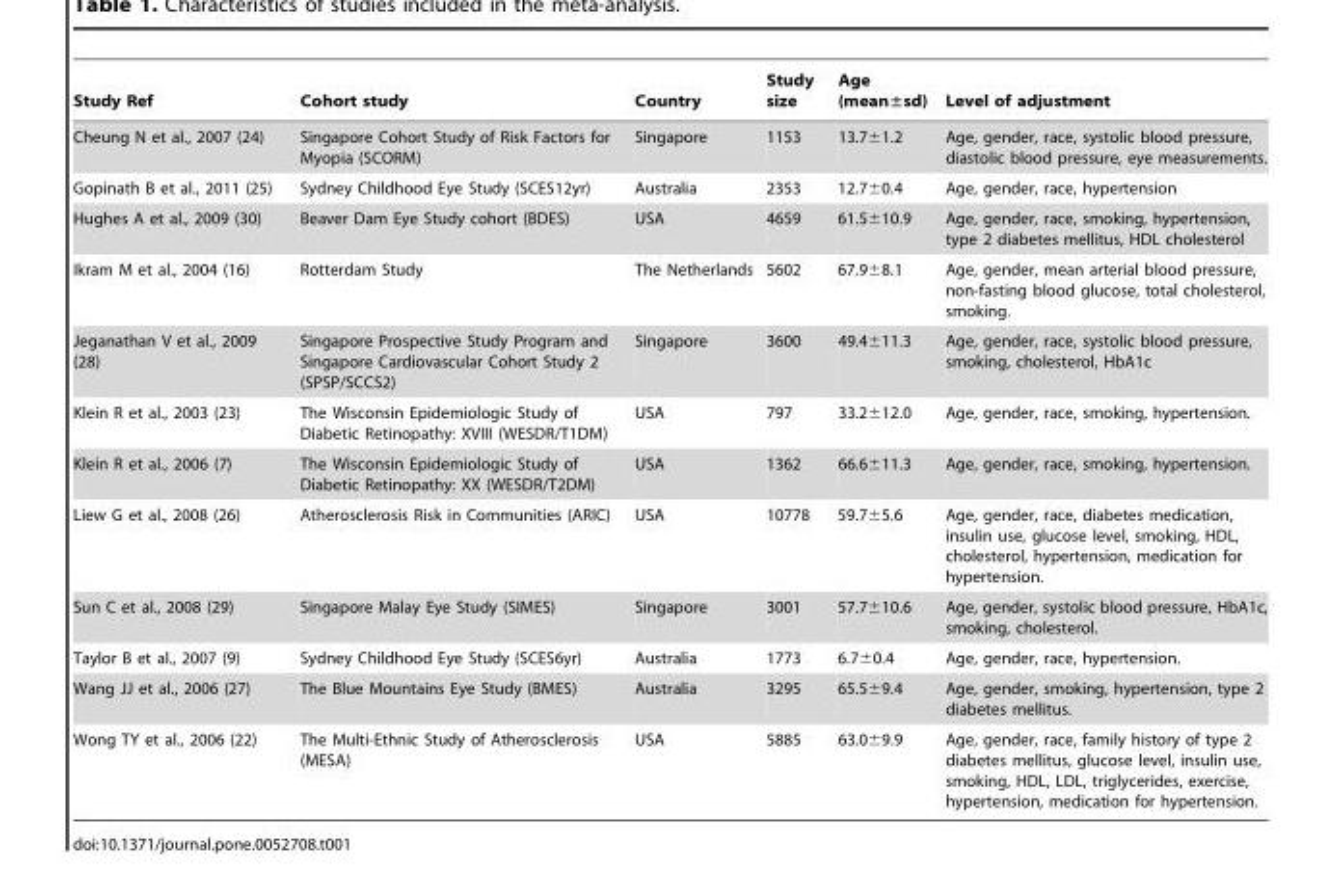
<table><thead><tr><td>Study Ref</td><td>Cohort study</td><td>Country</td><td>Study size</td><td>Age (mean±sd)</td><td>Level of adjustment</td></tr></thead><tbody><tr><td>Cheung N et al., 2007 (24)</td><td>Singapore Cohort Study of Risk Factors for Myopia (SCORM)</td><td>Singapore</td><td>1153</td><td>13.7±1.2</td><td>Age, gender, race, systolic blood pressure, diastolic blood pressure, eye measurements.</td></tr><tr><td>Gopinath B et al., 2011 (25)</td><td>Sydney Childhood Eye Study (SCES12yr)</td><td>Australia</td><td>2353</td><td>12.7±0.4</td><td>Age, gender, race, hypertension</td></tr><tr><td>Hughes A et al., 2009 (30)</td><td>Beaver Dam Eye Study cohort (BDES)</td><td>USA</td><td>4659</td><td>61.5±10.9</td><td>Age, gender, race, smoking, hypertension, type 2 diabetes mellitus, HDL cholesterol</td></tr><tr><td>Ikram M et al., 2004 (16)</td><td>Rotterdam Study</td><td>The Netherlands</td><td>5602</td><td>67.9±8.1</td><td>Age, gender, mean arterial blood pressure, non-fasting blood glucose, total cholesterol, smoking.</td></tr><tr><td>Jeganathan V et al., 2009 (28)</td><td>Singapore Prospective Study Program and Singapore Cardiovascular Cohort Study 2 (SPSP/SCCS2)</td><td>Singapore</td><td>3600</td><td>49.4±11.3</td><td>Age, gender, race, systolic blood pressure, smoking, cholesterol, HbA1c</td></tr><tr><td>Klein R et al., 2003 (23)</td><td>The Wisconsin Epidemiologic Study of Diabetic Retinopathy: XVIII (WESDR/T1DM)</td><td>USA</td><td>797</td><td>33.2±12.0</td><td>Age, gender, race, smoking, hypertension.</td></tr><tr><td>Klein R et al., 2006 (7)</td><td>The Wisconsin Epidemiologic Study of Diabetic Retinopathy: XX (WESDR/T2DM)</td><td>USA</td><td>1362</td><td>66.6±11.3</td><td>Age, gender, race, smoking, hypertension.</td></tr><tr><td>Liew G et al., 2008 (26)</td><td>Atherosclerosis Risk in Communities (ARIC)</td><td>USA</td><td>10778</td><td>59.7±5.6</td><td>Age, gender, race, diabetes medication, insulin use, glucose level, smoking, HDL, cholesterol, hypertension, medication for hypertension.</td></tr><tr><td>Sun C et al., 2008 (29)</td><td>Singapore Malay Eye Study (SIMES)</td><td>Singapore</td><td>3001</td><td>57.7±10.6</td><td>Age, gender, systolic blood pressure, HbA1c, smoking, cholesterol.</td></tr><tr><td>Taylor B et al., 2007 (9)</td><td>Sydney Childhood Eye Study (SCES6yr)</td><td>Australia</td><td>1773</td><td>6.7±0.4</td><td>Age, gender, race, hypertension.</td></tr><tr><td>Wang JJ et al., 2006 (27)</td><td>The Blue Mountains Eye Study (BMES)</td><td>Australia</td><td>3295</td><td>65.5±9.4</td><td>Age, gender, smoking, hypertension, type 2 diabetes mellitus.</td></tr><tr><td>Wong TY et al., 2006 (22)</td><td>The Multi-Ethnic Study of Atherosclerosis (MESA)</td><td>USA</td><td>5885</td><td>63.0±9.9</td><td>Age, gender, race, family history of type 2 diabetes mellitus, glucose level, insulin use, smoking, HDL, LDL, triglycerides, exercise, hypertension, medication for hypertension.</td></tr></tbody></table>